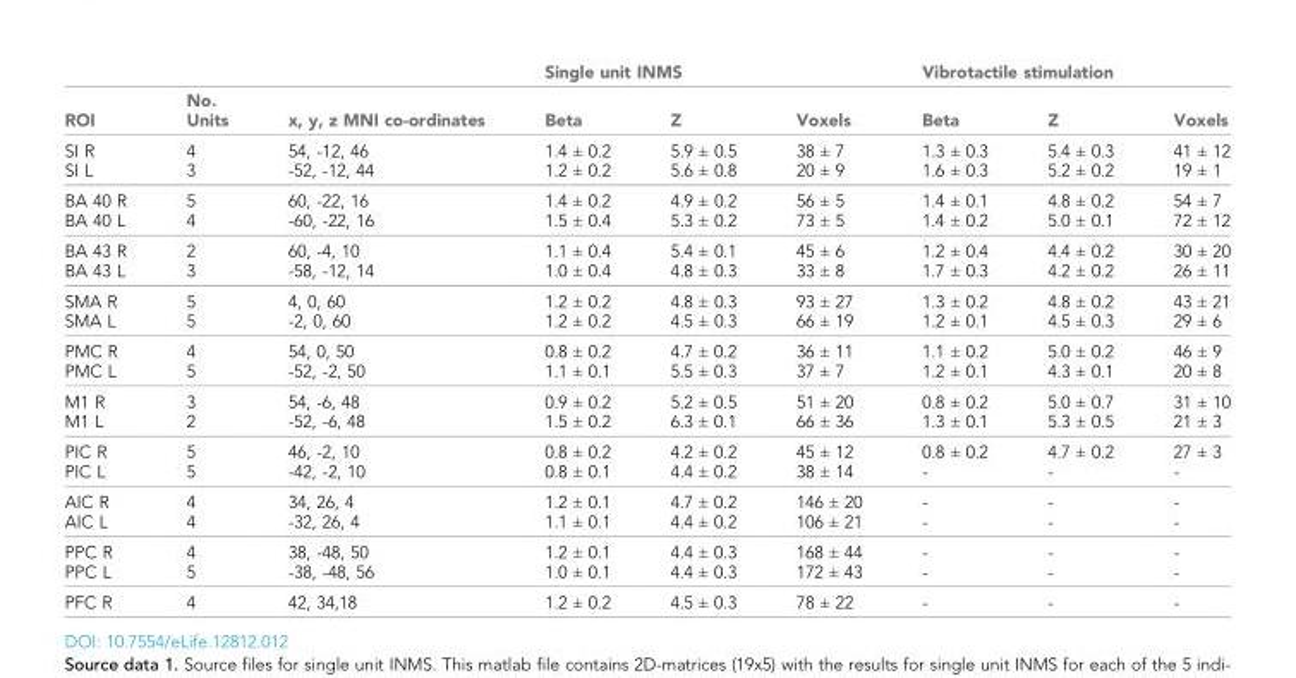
<table><thead><tr><td rowspan="2">ROI</td><td rowspan="2">No. Units</td><td rowspan="2">x, y, z MNI co-ordinates</td><td colspan="3">Single unit INMS</td><td colspan="3">Vibrotactile stimulation</td></tr><tr><td>Beta</td><td>Z</td><td>Voxels</td><td>Beta</td><td>Z</td><td>Voxels</td></tr></thead><tbody><tr><td>SI R SI L</td><td>4 3</td><td>54, -12, 46 -52, -12, 44</td><td>1.4 ± 0.2 1.2 ± 0.2</td><td>5.9 ± 0.5 5.6 ± 0.8</td><td>38 ± 7 20 ± 9</td><td>1.3 ± 0.3 1.6 ± 0.3</td><td>5.4 ± 0.3 5.2 ± 0.2</td><td>41 ± 12 19 ± 1</td></tr><tr><td>BA 40 R BA 40 L</td><td>5 4</td><td>60, -22, 16 -60, -22, 16</td><td>1.4 ± 0.2 1.5 ± 0.4</td><td>4.9 ± 0.2 5.3 ± 0.2</td><td>56 ± 5 73 ± 5</td><td>1.4 ± 0.1 1.4 ± 0.2</td><td>4.8 ± 0.2 5.0 ± 0.1</td><td>54 ± 7 72 ± 12</td></tr><tr><td>BA 43 R BA 43 L</td><td>2 3</td><td>60, -4, 10 -58, -12, 14</td><td>1.1 ± 0.4 1.0 ± 0.4</td><td>5.4 ± 0.1 4.8 ± 0.3</td><td>45 ± 6 33 ± 8</td><td>1.2 ± 0.4 1.7 ± 0.3</td><td>4.4 ± 0.2 4.2 ± 0.2</td><td>30 ± 20 26 ± 11</td></tr><tr><td>SMA R SMA L</td><td>5 5</td><td>4, 0, 60 -2, 0, 60</td><td>1.2 ± 0.2 1.2 ± 0.2</td><td>4.8 ± 0.3 4.5 ± 0.3</td><td>93 ± 27 66 ± 19</td><td>1.3 ± 0.2 1.2 ± 0.1</td><td>4.8 ± 0.2 4.5 ± 0.3</td><td>43 ± 21 29 ± 6</td></tr><tr><td>PMC R PMC L</td><td>4 5</td><td>54, 0, 50 -52, -2, 50</td><td>0.8 ± 0.2 1.1 ± 0.1</td><td>4.7 ± 0.2 5.5 ± 0.3</td><td>36 ± 11 37 ± 7</td><td>1.1 ± 0.2 1.2 ± 0.1</td><td>5.0 ± 0.2 4.3 ± 0.1</td><td>46 ± 9 20 ± 8</td></tr><tr><td>M1 R M1 L</td><td>3 2</td><td>54, -6, 48 -52, -6, 48</td><td>0.9 ± 0.2 1.5 ± 0.2</td><td>5.2 ± 0.5 6.3 ± 0.1</td><td>51 ± 20 66 ± 36</td><td>0.8 ± 0.2 1.3 ± 0.1</td><td>5.0 ± 0.7 5.3 ± 0.5</td><td>31 ± 10 21 ± 3</td></tr><tr><td>PIC R PIC L</td><td>5 5</td><td>46, -2, 10 -42, -2, 10</td><td>0.8 ± 0.2 0.8 ± 0.1</td><td>4.2 ± 0.2 4.4 ± 0.2</td><td>45 ± 12 38 ± 14</td><td>0.8 ± 0.2 -</td><td>4.7 ± 0.2 -</td><td>27 ± 3 -</td></tr><tr><td>AIC R AIC L</td><td>4 4</td><td>34, 26, 4 -32, 26, 4</td><td>1.2 ± 0.1 1.1 ± 0.1</td><td>4.7 ± 0.2 4.4 ± 0.2</td><td>146 ± 20 106 ± 21</td><td>- -</td><td>- -</td><td>- -</td></tr><tr><td>PPC R PPC L</td><td>4 5</td><td>38, -48, 50 -38, -48, 56</td><td>1.2 ± 0.1 1.0 ± 0.1</td><td>4.4 ± 0.3 4.4 ± 0.3</td><td>168 ± 44 172 ± 43</td><td>- -</td><td>- -</td><td>- -</td></tr><tr><td>PFC R</td><td>4</td><td>42, 34,18</td><td>1.2 ± 0.2</td><td>4.5 ± 0.3</td><td>78 ± 22</td><td>-</td><td>-</td><td>-</td></tr></tbody></table>